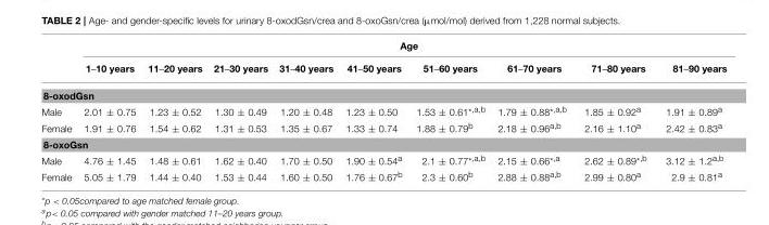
<table><thead><tr><td rowspan="2"></td><td colspan="9">Age</td></tr><tr><td>1–10 years</td><td>11–20 years</td><td>21–30 years</td><td>31–40 years</td><td>41–50 years</td><td>51–60 years</td><td>61–70 years</td><td>71–80 years</td><td>81–90 years</td></tr></thead><tbody><tr><td colspan="10">8-oxodGsn</td></tr><tr><td>Male</td><td>2.01 ± 0.75</td><td>1.23 ± 0.52</td><td>1.30 ± 0.49</td><td>1.20 ± 0.48</td><td>1.23 ± 0.50</td><td>1.53 ± 0.61<sup>*,a,b</sup></td><td>1.79 ± 0.88<sup>*,a,b</sup></td><td>1.85 ± 0.92<sup>a</sup></td><td>1.91 ± 0.89<sup>a</sup></td></tr><tr><td>Female</td><td>1.91 ± 0.76</td><td>1.54 ± 0.62</td><td>1.31 ± 0.53</td><td>1.35 ± 0.67</td><td>1.33 ± 0.74</td><td>1.88 ± 0.79<sup>b</sup></td><td>2.18 ± 0.96<sup>a,b</sup></td><td>2.16 ± 1.10<sup>a</sup></td><td>2.42 ± 0.83<sup>a</sup></td></tr><tr><td colspan="10">8-oxoGsn</td></tr><tr><td>Male</td><td>4.76 ± 1.45</td><td>1.48 ± 0.61</td><td>1.62 ± 0.40</td><td>1.70 ± 0.50</td><td>1.90 ± 0.54<sup>a</sup></td><td>2.1 ± 0.77<sup>*,a,b</sup></td><td>2.15 ± 0.66<sup>*,a</sup></td><td>2.62 ± 0.89<sup>*,b</sup></td><td>3.12 ± 1.2<sup>a,b</sup></td></tr><tr><td>Female</td><td>5.05 ± 1.79</td><td>1.44 ± 0.40</td><td>1.53 ± 0.44</td><td>1.60 ± 0.50</td><td>1.76 ± 0.67<sup>b</sup></td><td>2.3 ± 0.60<sup>b</sup></td><td>2.88 ± 0.88<sup>a,b</sup></td><td>2.99 ± 0.80<sup>a</sup></td><td>2.9 ± 0.81<sup>a</sup></td></tr></tbody></table>